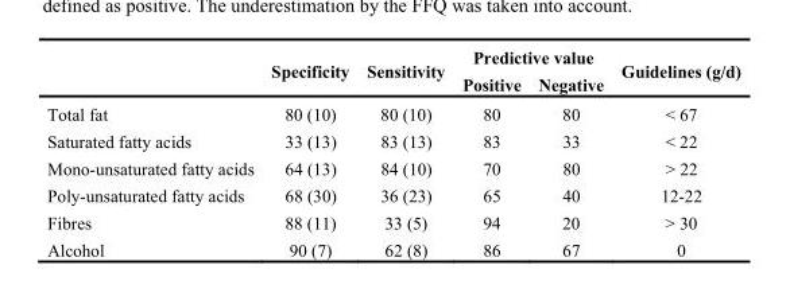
<table><thead><tr><td rowspan="2"></td><td rowspan="2">Specificity</td><td rowspan="2">Sensitivity</td><td colspan="2">Predictive value</td><td rowspan="2">Guidelines (g/d)</td></tr><tr><td>Positive</td><td>Negative</td></tr></thead><tbody><tr><td>Total fat</td><td>80 (10)</td><td>80 (10)</td><td>80</td><td>80</td><td>&lt; 67</td></tr><tr><td>Saturated fatty acids</td><td>33 (13)</td><td>83 (13)</td><td>83</td><td>33</td><td>&lt; 22</td></tr><tr><td>Mono-unsaturated fatty acids</td><td>64 (13)</td><td>84 (10)</td><td>70</td><td>80</td><td>&gt; 22</td></tr><tr><td>Poly-unsaturated fatty acids</td><td>68 (30)</td><td>36 (23)</td><td>65</td><td>40</td><td>12-22</td></tr><tr><td>Fibres</td><td>88 (11)</td><td>33 (5)</td><td>94</td><td>20</td><td>&gt; 30</td></tr><tr><td>Alcohol</td><td>90 (7)</td><td>62 (8)</td><td>86</td><td>67</td><td>0</td></tr></tbody></table>